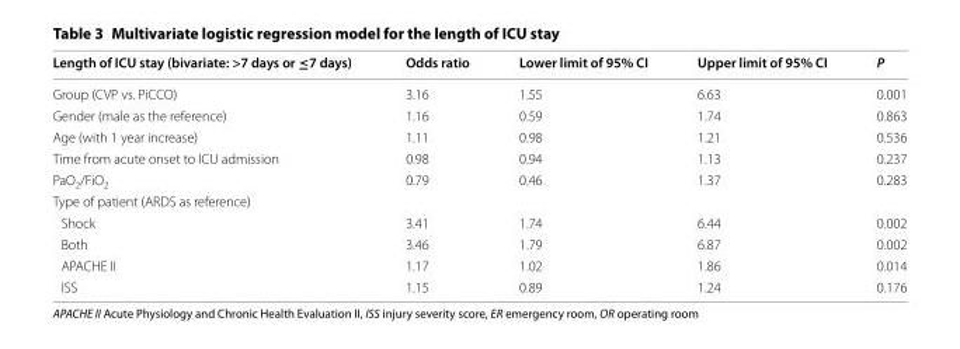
<table><thead><tr><td>Length of ICU stay (bivariate: &gt;7 days or ≤7 days)</td><td>Odds ratio</td><td>Lower limit of 95% CI</td><td>Upper limit of 95% CI</td><td>P</td></tr></thead><tbody><tr><td>Group (CVP vs. PiCCO)</td><td>3.16</td><td>1.55</td><td>6.63</td><td>0.001</td></tr><tr><td>Gender (male as the reference)</td><td>1.16</td><td>0.59</td><td>1.74</td><td>0.863</td></tr><tr><td>Age (with 1 year increase)</td><td>1.11</td><td>0.98</td><td>1.21</td><td>0.536</td></tr><tr><td>Time from acute onset to ICU admission</td><td>0.98</td><td>0.94</td><td>1.13</td><td>0.237</td></tr><tr><td>PaO<sub>2</sub>/FiO<sub>2</sub></td><td>0.79</td><td>0.46</td><td>1.37</td><td>0.283</td></tr><tr><td colspan="5">Type of patient (ARDS as reference)</td></tr><tr><td>Shock</td><td>3.41</td><td>1.74</td><td>6.44</td><td>0.002</td></tr><tr><td>Both</td><td>3.46</td><td>1.79</td><td>6.87</td><td>0.002</td></tr><tr><td>APACHE II</td><td>1.17</td><td>1.02</td><td>1.86</td><td>0.014</td></tr><tr><td>ISS</td><td>1.15</td><td>0.89</td><td>1.24</td><td>0.176</td></tr></tbody></table>